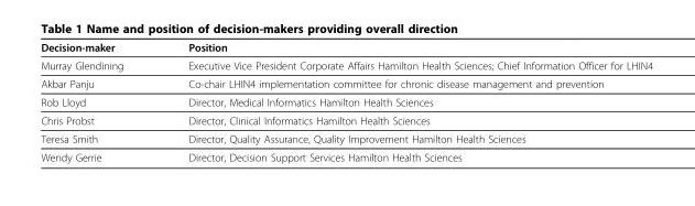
<table><thead><tr><td>Decision-maker</td><td>Position</td></tr></thead><tbody><tr><td>Murray Glendining</td><td>Executive Vice President Corporate Affairs Hamilton Health Sciences; Chief Information Officer for LHIN4</td></tr><tr><td>Akbar Panju</td><td>Co-chair LHIN4 implementation committee for chronic disease management and prevention</td></tr><tr><td>Rob Lloyd</td><td>Director, Medical Informatics Hamilton Health Sciences</td></tr><tr><td>Chris Probst</td><td>Director, Clinical Informatics Hamilton Health Sciences</td></tr><tr><td>Teresa Smith</td><td>Director, Quality Assurance, Quality Improvement Hamilton Health Sciences</td></tr><tr><td>Wendy Gerrie</td><td>Director, Decision Support Services Hamilton Health Sciences</td></tr></tbody></table>